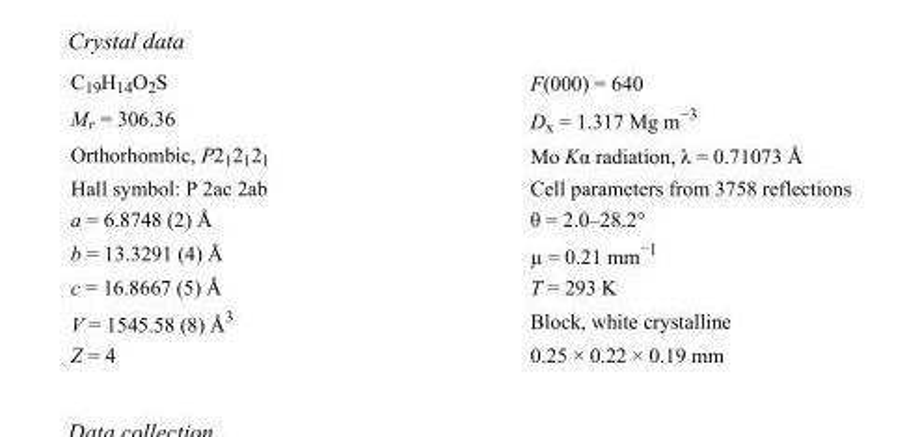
<table><tbody><tr><td>C<sub>19</sub>H<sub>14</sub>O<sub>2</sub>S</td><td>F(000) = 640</td></tr><tr><td>M<sub>r</sub> = 306.36</td><td>D<sub>x</sub> = 1.317 Mg m<sup>−3</sup></td></tr><tr><td>Orthorhombic, P2<sub>1</sub>2<sub>1</sub>2<sub>1</sub></td><td>Mo Kα radiation, λ = 0.71073 Å</td></tr><tr><td>Hall symbol: P 2ac 2ab</td><td>Cell parameters from 3758 reflections</td></tr><tr><td>a = 6.8748 (2) Å</td><td>θ = 2.0–28.2°</td></tr><tr><td>b = 13.3291 (4) Å</td><td>µ = 0.21 mm<sup>−1</sup></td></tr><tr><td>c = 16.8667 (5) Å</td><td>T = 293 K</td></tr><tr><td>V = 1545.58 (8) Å<sup>3</sup></td><td>Block, white crystalline</td></tr><tr><td>Z = 4</td><td>0.25 × 0.22 × 0.19 mm</td></tr></tbody></table>